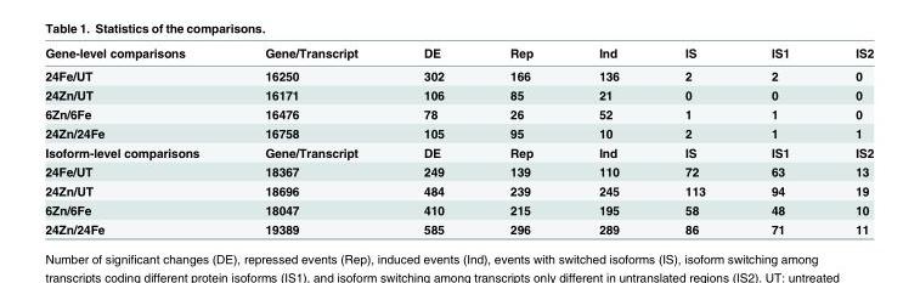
<table><thead><tr><td>Gene-level comparisons</td><td>Gene/Transcript</td><td>DE</td><td>Rep</td><td>Ind</td><td>IS</td><td>IS1</td><td>IS2</td></tr></thead><tbody><tr><td>24Fe/UT</td><td>16250</td><td>302</td><td>166</td><td>136</td><td>2</td><td>2</td><td>0</td></tr><tr><td>24Zn/UT</td><td>16171</td><td>106</td><td>85</td><td>21</td><td>0</td><td>0</td><td>0</td></tr><tr><td>6Zn/6Fe</td><td>16476</td><td>78</td><td>26</td><td>52</td><td>1</td><td>1</td><td>0</td></tr><tr><td>24Zn/24Fe</td><td>16758</td><td>105</td><td>95</td><td>10</td><td>2</td><td>1</td><td>1</td></tr><tr><td>Isoform-level comparisons</td><td>Gene/Transcript</td><td>DE</td><td>Rep</td><td>Ind</td><td>IS</td><td>IS1</td><td>IS2</td></tr><tr><td>24Fe/UT</td><td>18367</td><td>249</td><td>139</td><td>110</td><td>72</td><td>63</td><td>13</td></tr><tr><td>24Zn/UT</td><td>18696</td><td>484</td><td>239</td><td>245</td><td>113</td><td>94</td><td>19</td></tr><tr><td>6Zn/6Fe</td><td>18047</td><td>410</td><td>215</td><td>195</td><td>58</td><td>48</td><td>10</td></tr><tr><td>24Zn/24Fe</td><td>19389</td><td>585</td><td>296</td><td>289</td><td>86</td><td>71</td><td>11</td></tr></tbody></table>